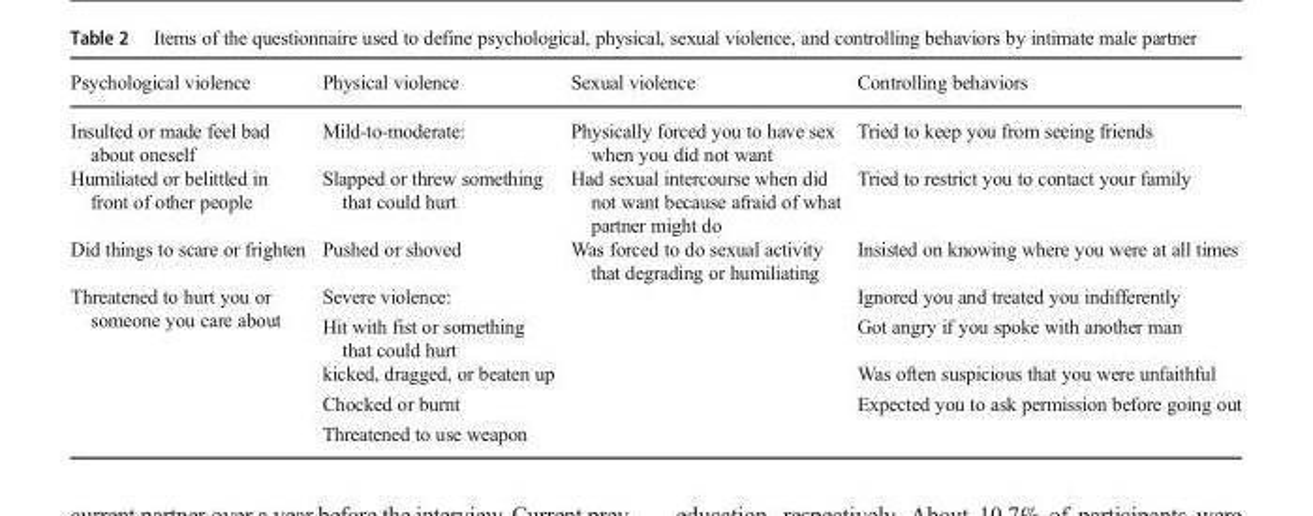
<table><thead><tr><td>Psychological violence</td><td>Physical violence</td><td>Sexual violence</td><td>Controlling behaviors</td></tr></thead><tbody><tr><td>Insulted or made feel bad about oneself</td><td>Mild-to-moderate:</td><td>Physically forced you to have sex when you did not want</td><td>Tried to keep you from seeing friends</td></tr><tr><td>Humiliated or belittled in front of other people</td><td>Slapped or threw something that could hurt</td><td>Had sexual intercourse when did not want because afraid of what partner might do</td><td>Tried to restrict you to contact your family</td></tr><tr><td>Did things to scare or frighten</td><td>Pushed or shoved</td><td>Was forced to do sexual activity that degrading or humiliating</td><td>Insisted on knowing where you were at all times</td></tr><tr><td rowspan="5">Threatened to hurt you or someone you care about</td><td>Severe violence:</td><td></td><td>Ignored you and treated you indifferently</td></tr><tr><td>Hit with fist or something that could hurt</td><td></td><td>Got angry if you spoke with another man</td></tr><tr><td>kicked, dragged, or beaten up</td><td></td><td>Was often suspicious that you were unfaithful</td></tr><tr><td>Chocked or burnt</td><td></td><td>Expected you to ask permission before going out</td></tr><tr><td>Threatened to use weapon</td><td></td><td></td></tr></tbody></table>